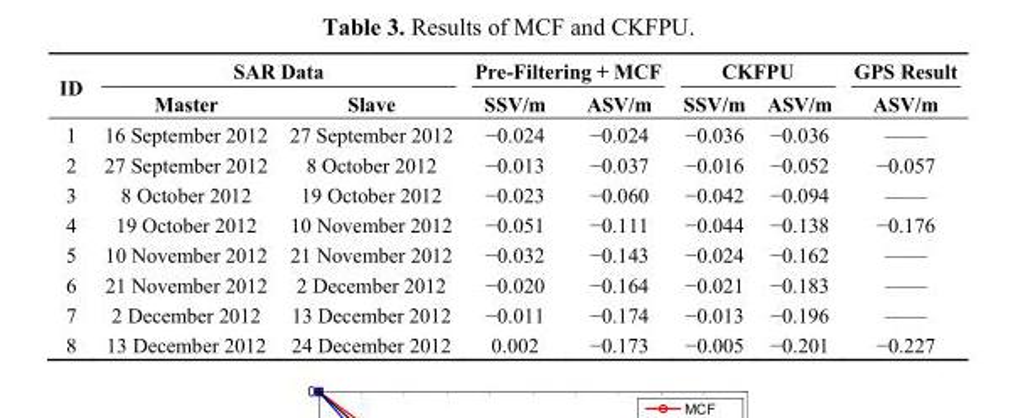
<table><thead><tr><td rowspan="2">ID</td><td colspan="2">SAR Data</td><td colspan="2">Pre-Filtering + MCF</td><td colspan="2">CKFPU</td><td rowspan="2">GPS Result ASV/m</td></tr><tr><td>Master</td><td>Slave</td><td>SSV/m</td><td>ASV/m</td><td>SSV/m</td><td>ASV/m</td></tr></thead><tbody><tr><td>1</td><td>16 September 2012</td><td>27 September 2012</td><td>−0.024</td><td>−0.024</td><td>−0.036</td><td>−0.036</td><td>——</td></tr><tr><td>2</td><td>27 September 2012</td><td>8 October 2012</td><td>−0.013</td><td>−0.037</td><td>−0.016</td><td>−0.052</td><td>−0.057</td></tr><tr><td>3</td><td>8 October 2012</td><td>19 October 2012</td><td>−0.023</td><td>−0.060</td><td>−0.042</td><td>−0.094</td><td>——</td></tr><tr><td>4</td><td>19 October 2012</td><td>10 November 2012</td><td>−0.051</td><td>−0.111</td><td>−0.044</td><td>−0.138</td><td>−0.176</td></tr><tr><td>5</td><td>10 November 2012</td><td>21 November 2012</td><td>−0.032</td><td>−0.143</td><td>−0.024</td><td>−0.162</td><td>——</td></tr><tr><td>6</td><td>21 November 2012</td><td>2 December 2012</td><td>−0.020</td><td>−0.164</td><td>−0.021</td><td>−0.183</td><td>——</td></tr><tr><td>7</td><td>2 December 2012</td><td>13 December 2012</td><td>−0.011</td><td>−0.174</td><td>−0.013</td><td>−0.196</td><td>——</td></tr><tr><td>8</td><td>13 December 2012</td><td>24 December 2012</td><td>0.002</td><td>−0.173</td><td>−0.005</td><td>−0.201</td><td>−0.227</td></tr></tbody></table>